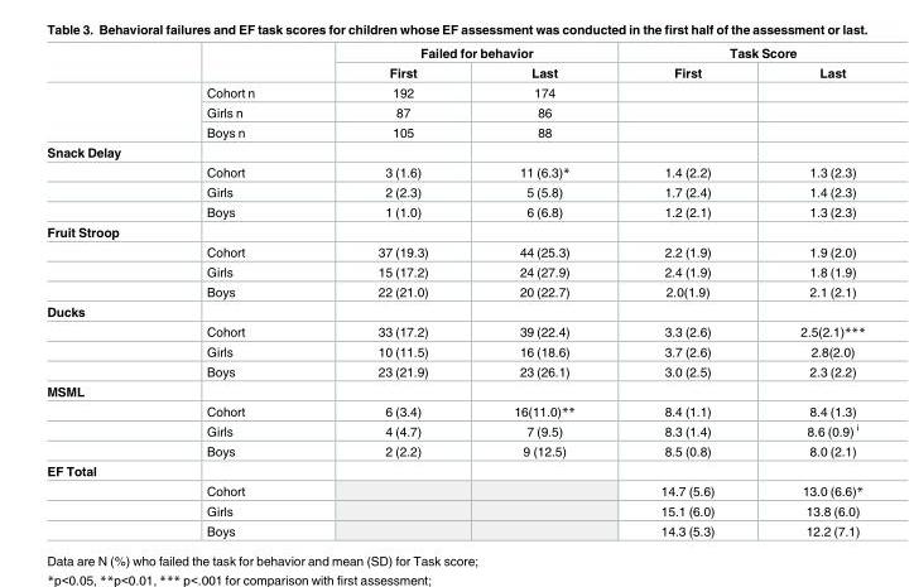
<table><thead><tr><td rowspan="2"></td><td rowspan="2"></td><td colspan="2">Failed for behavior</td><td colspan="2">Task Score</td></tr><tr><td>First</td><td>Last</td><td>First</td><td>Last</td></tr></thead><tbody><tr><td rowspan="3"></td><td>Cohort n</td><td>192</td><td>174</td><td></td><td></td></tr><tr><td>Girls n</td><td>87</td><td>86</td><td></td><td></td></tr><tr><td>Boys n</td><td>105</td><td>88</td><td></td><td></td></tr><tr><td colspan="6">Snack Delay</td></tr><tr><td></td><td>Cohort</td><td>3 (1.6)</td><td>11 (6.3)*</td><td>1.4 (2.2)</td><td>1.3 (2.3)</td></tr><tr><td></td><td>Girls</td><td>2 (2.3)</td><td>5 (5.8)</td><td>1.7 (2.4)</td><td>1.4 (2.3)</td></tr><tr><td></td><td>Boys</td><td>1 (1.0)</td><td>6 (6.8)</td><td>1.2 (2.1)</td><td>1.3 (2.3)</td></tr><tr><td colspan="6">Fruit Stroop</td></tr><tr><td></td><td>Cohort</td><td>37 (19.3)</td><td>44 (25.3)</td><td>2.2 (1.9)</td><td>1.9 (2.0)</td></tr><tr><td></td><td>Girls</td><td>15 (17.2)</td><td>24 (27.9)</td><td>2.4 (1.9)</td><td>1.8 (1.9)</td></tr><tr><td></td><td>Boys</td><td>22 (21.0)</td><td>20 (22.7)</td><td>2.0(1.9)</td><td>2.1 (2.1)</td></tr><tr><td colspan="6">Ducks</td></tr><tr><td></td><td>Cohort</td><td>33 (17.2)</td><td>39 (22.4)</td><td>3.3 (2.6)</td><td>2.5(2.1)***</td></tr><tr><td></td><td>Girls</td><td>10 (11.5)</td><td>16 (18.6)</td><td>3.7 (2.6)</td><td>2.8(2.0)</td></tr><tr><td></td><td>Boys</td><td>23 (21.9)</td><td>23 (26.1)</td><td>3.0 (2.5)</td><td>2.3 (2.2)</td></tr><tr><td colspan="6">MSML</td></tr><tr><td></td><td>Cohort</td><td>6 (3.4)</td><td>16(11.0)**</td><td>8.4 (1.1)</td><td>8.4 (1.3)</td></tr><tr><td></td><td>Girls</td><td>4 (4.7)</td><td>7 (9.5)</td><td>8.3 (1.4)</td><td>8.6 (0.9) <sup>i</sup></td></tr><tr><td></td><td>Boys</td><td>2 (2.2)</td><td>9 (12.5)</td><td>8.5 (0.8)</td><td>8.0 (2.1)</td></tr><tr><td colspan="6">EF Total</td></tr><tr><td></td><td>Cohort</td><td></td><td></td><td>14.7 (5.6)</td><td>13.0 (6.6)*</td></tr><tr><td></td><td>Girls</td><td></td><td></td><td>15.1 (6.0)</td><td>13.8 (6.0)</td></tr><tr><td></td><td>Boys</td><td></td><td></td><td>14.3 (5.3)</td><td>12.2 (7.1)</td></tr></tbody></table>